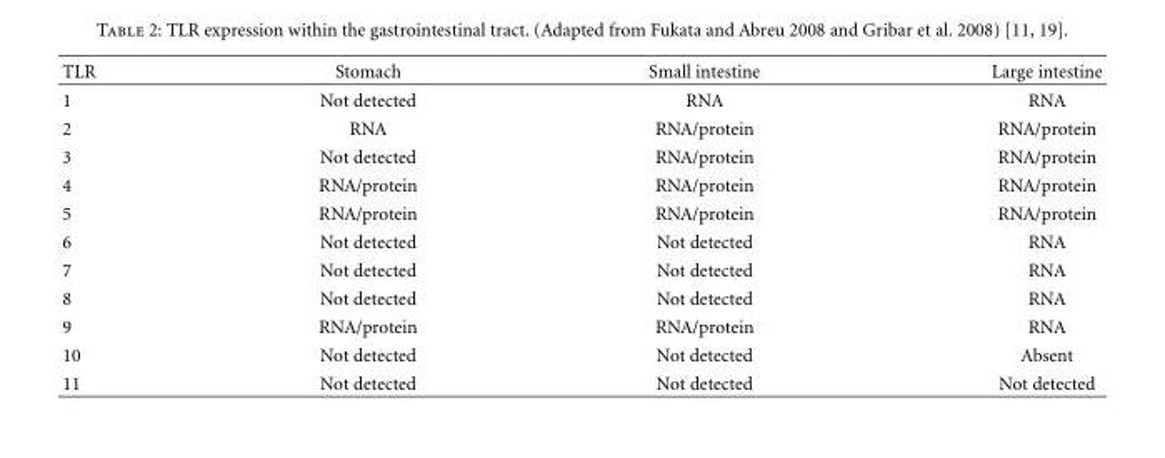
<table><thead><tr><td>TLR</td><td>Stomach</td><td>Small intestine</td><td>Large intestine</td></tr></thead><tbody><tr><td>1</td><td>Not detected</td><td>RNA</td><td>RNA</td></tr><tr><td>2</td><td>RNA</td><td>RNA/protein</td><td>RNA/protein</td></tr><tr><td>3</td><td>Not detected</td><td>RNA/protein</td><td>RNA/protein</td></tr><tr><td>4</td><td>RNA/protein</td><td>RNA/protein</td><td>RNA/protein</td></tr><tr><td>5</td><td>RNA/protein</td><td>RNA/protein</td><td>RNA/protein</td></tr><tr><td>6</td><td>Not detected</td><td>Not detected</td><td>RNA</td></tr><tr><td>7</td><td>Not detected</td><td>Not detected</td><td>RNA</td></tr><tr><td>8</td><td>Not detected</td><td>Not detected</td><td>RNA</td></tr><tr><td>9</td><td>RNA/protein</td><td>RNA/protein</td><td>RNA</td></tr><tr><td>10</td><td>Not detected</td><td>Not detected</td><td>Absent</td></tr><tr><td>11</td><td>Not detected</td><td>Not detected</td><td>Not detected</td></tr></tbody></table>